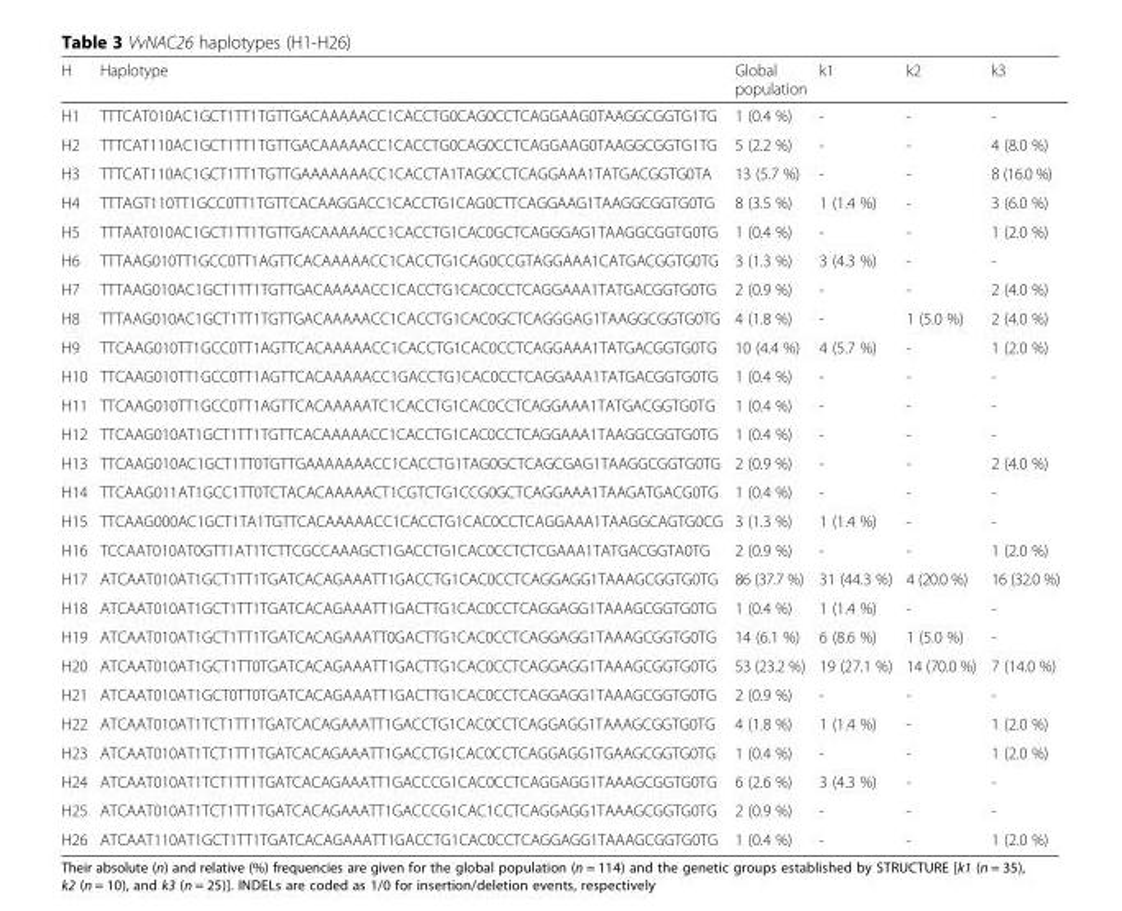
<table><thead><tr><td>H</td><td>Haplotype</td><td>Global population</td><td>k1</td><td>k2</td><td>k3</td></tr></thead><tbody><tr><td>H1</td><td>TTTCAT010AC1GCT1TT1TGTTGACAAAAACC1CACCTG0CAG0CCTCAGGAAG0TAAGGCGGTG1TG</td><td>1 (0.4 %)</td><td>-</td><td>-</td><td>-</td></tr><tr><td>H2</td><td>TTTCAT110AC1GCT1TT1TGTTGACAAAAACC1CACCTG0CAG0CCTCAGGAAG0TAAGGCGGTG1TG</td><td>5 (2.2 %)</td><td>-</td><td>-</td><td>4 (8.0 %)</td></tr><tr><td>H3</td><td>TTTCAT110AC1GCT1TT1TGTTGAAAAAAACC1CACCTA1TAG0CCTCAGGAAA1TATGACGGTG0TA</td><td>13 (5.7 %)</td><td>-</td><td>-</td><td>8 (16.0 %)</td></tr><tr><td>H4</td><td>TTTAGT110TT1GCC0TT1TGTTCACAAGGACC1CACCTG1CAG0CTTCAGGAAG1TAAGGCGGTG0TG</td><td>8 (3.5 %)</td><td>1 (1.4 %)</td><td>-</td><td>3 (6.0 %)</td></tr><tr><td>H5</td><td>TTTAAT010AC1GCT1TT1TGTTGACAAAAACC1CACCTG1CAC0GCTCAGGGAG1TAAGGCGGTG0TG</td><td>1 (0.4 %)</td><td>-</td><td>-</td><td>1 (2.0 %)</td></tr><tr><td>H6</td><td>TTTAAG010TT1GCC0TT1AGTTCACAAAAACC1CACCTG1CAG0CCGTAGGAAA1CATGACGGTG0TG</td><td>3 (1.3 %)</td><td>3 (4.3 %)</td><td>-</td><td>-</td></tr><tr><td>H7</td><td>TTTAAG010AC1GCT1TT1TGTTGACAAAAACC1CACCTG1CAC0CCTCAGGAAA1TATGACGGTG0TG</td><td>2 (0.9 %)</td><td>-</td><td>-</td><td>2 (4.0 %)</td></tr><tr><td>H8</td><td>TTTAAG010AC1GCT1TT1TGTTGACAAAAACC1CACCTG1CAC0GCTCAGGGAG1TAAGGCGGTG0TG</td><td>4 (1.8 %)</td><td>-</td><td>1 (5.0 %)</td><td>2 (4.0 %)</td></tr><tr><td>H9</td><td>TTCAAG010TT1GCC0TT1AGTTCACAAAAACC1CACCTG1CAC0CCTCAGGAAA1TATGACGGTG0TG</td><td>10 (4.4 %)</td><td>4 (5.7 %)</td><td>-</td><td>1 (2.0 %)</td></tr><tr><td>H10</td><td>TTCAAG010TT1GCC0TT1AGTTCACAAAAACC1GACCTG1CAC0CCTCAGGAAA1TATGACGGTG0TG</td><td>1 (0.4 %)</td><td>-</td><td>-</td><td>-</td></tr><tr><td>H11</td><td>TTCAAG010TT1GCC0TT1AGTTCACAAAAATC1CACCTG1CAC0CCTCAGGAAA1TATGACGGTG0TG</td><td>1 (0.4 %)</td><td>-</td><td>-</td><td>-</td></tr><tr><td>H12</td><td>TTCAAG010AT1GCT1TT1TGTTCACAAAAACC1CACCTG1CAC0CCTCAGGAAA1TAAGGCGGTG0TG</td><td>1 (0.4 %)</td><td>-</td><td>-</td><td>-</td></tr><tr><td>H13</td><td>TTCAAG010AC1GCT1TT0TGTTGAAAAAAACC1CACCTG1TAG0GCTCAGCGAG1TAAGGCGGTG0TG</td><td>2 (0.9 %)</td><td>-</td><td>-</td><td>2 (4.0 %)</td></tr><tr><td>H14</td><td>TTCAAG011AT1GCC1TT0TCTACACAAAAACT1CGTCTG1CCG0GCTCAGGAAA1TAAGATGACG0TG</td><td>1 (0.4 %)</td><td>-</td><td>-</td><td>-</td></tr><tr><td>H15</td><td>TTCAAG000AC1GCT1TA1TGTTCACAAAAACC1CACCTG1CAC0CCTCAGGAAA1TAAGGCAGTG0CG</td><td>3 (1.3 %)</td><td>1 (1.4 %)</td><td>-</td><td>-</td></tr><tr><td>H16</td><td>TCCAAT010AT0GTT1AT1TCTTCGCCAAAGCT1GACCTG1CAC0CCTCTCGAAA1TATGACGGTA0TG</td><td>2 (0.9 %)</td><td>-</td><td>-</td><td>1 (2.0 %)</td></tr><tr><td>H17</td><td>ATCAAT010AT1GCT1TT1TGATCACAGAAATT1GACCTG1CAC0CCTCAGGAGG1TAAAGCGGTG0TG</td><td>86 (37.7 %)</td><td>31 (44.3 %)</td><td>4 (20.0 %)</td><td>16 (32.0 %)</td></tr><tr><td>H18</td><td>ATCAAT010AT1GCT1TT1TGATCACAGAAATT1GACTTG1CAC0CCTCAGGAGG1TAAAGCGGTG0TG</td><td>1 (0.4 %)</td><td>1 (1.4 %)</td><td>-</td><td>-</td></tr><tr><td>H19</td><td>ATCAAT010AT1GCT1TT1TGATCACAGAAATT0GACTTG1CAC0CCTCAGGAGG1TAAAGCGGTG0TG</td><td>14 (6.1 %)</td><td>6 (8.6 %)</td><td>1 (5.0 %)</td><td>-</td></tr><tr><td>H20</td><td>ATCAAT010AT1GCT1TT0TGATCACAGAAATT1GACTTG1CAC0CCTCAGGAGG1TAAAGCGGTG0TG</td><td>53 (23.2 %)</td><td>19 (27.1 %)</td><td>14 (70.0 %)</td><td>7 (14.0 %)</td></tr><tr><td>H21</td><td>ATCAAT010AT1GCT0TT0TGATCACAGAAATT1GACTTG1CAC0CCTCAGGAGG1TAAAGCGGTG0TG</td><td>2 (0.9 %)</td><td>-</td><td>-</td><td>-</td></tr><tr><td>H22</td><td>ATCAAT010AT1TCT1TT1TGATCACAGAAATT1GACCTG1CAC0CCTCAGGAGG1TAAAGCGGTG0TG</td><td>4 (1.8 %)</td><td>1 (1.4 %)</td><td>-</td><td>1 (2.0 %)</td></tr><tr><td>H23</td><td>ATCAAT010AT1TCT1TT1TGATCACAGAAATT1GACCTG1CAC0CCTCAGGAGG1TGAAGCGGTG0TG</td><td>1 (0.4 %)</td><td>-</td><td>-</td><td>1 (2.0 %)</td></tr><tr><td>H24</td><td>ATCAAT010AT1TCT1TT1TGATCACAGAAATT1GACCCG1CAC0CCTCAGGAGG1TAAAGCGGTG0TG</td><td>6 (2.6 %)</td><td>3 (4.3 %)</td><td>-</td><td>-</td></tr><tr><td>H25</td><td>ATCAAT010AT1TCT1TT1TGATCACAGAAATT1GACCCG1CAC1CCTCAGGAGG1TAAAGCGGTG0TG</td><td>2 (0.9 %)</td><td>-</td><td>-</td><td>-</td></tr><tr><td>H26</td><td>ATCAAT110AT1GCT1TT1TGATCACAGAAATT1GACCTG1CAC0CCTCAGGAGG1TAAAGCGGTG0TG</td><td>1 (0.4 %)</td><td>-</td><td>-</td><td>1 (2.0 %)</td></tr></tbody></table>